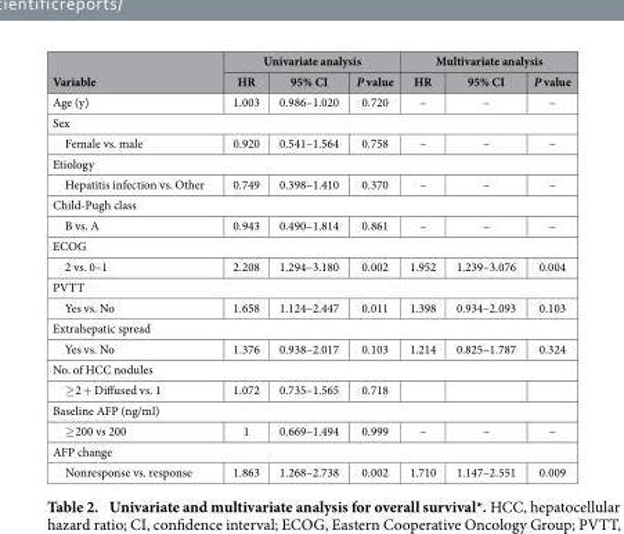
<table><thead><tr><td rowspan="2">Variable</td><td colspan="3">Univariate analysis</td><td colspan="3">Multivariate analysis</td></tr><tr><td>HR</td><td>95% CI</td><td>P value</td><td>HR</td><td>95% CI</td><td>P value</td></tr></thead><tbody><tr><td>Age (y)</td><td>1.003</td><td>0.986–1.020</td><td>0.720</td><td>–</td><td>–</td><td>–</td></tr><tr><td colspan="7">Sex</td></tr><tr><td>Female vs. male</td><td>0.920</td><td>0.541–1.564</td><td>0.758</td><td>–</td><td>–</td><td>–</td></tr><tr><td colspan="7">Etiology</td></tr><tr><td>Hepatitis infection vs. Other</td><td>0.749</td><td>0.398–1.410</td><td>0.370</td><td>–</td><td>–</td><td>–</td></tr><tr><td colspan="7">Child-Pugh class</td></tr><tr><td>B vs. A</td><td>0.943</td><td>0.490–1.814</td><td>0.861</td><td>–</td><td>–</td><td>–</td></tr><tr><td colspan="7">ECOG</td></tr><tr><td>2 vs. 0–1</td><td>2.208</td><td>1.294–3.180</td><td>0.002</td><td>1.952</td><td>1.239–3.076</td><td>0.004</td></tr><tr><td colspan="7">PVTT</td></tr><tr><td>Yes vs. No</td><td>1.658</td><td>1.124–2.447</td><td>0.011</td><td>1.398</td><td>0.934–2.093</td><td>0.103</td></tr><tr><td colspan="7">Extrahepatic spread</td></tr><tr><td>Yes vs. No</td><td>1.376</td><td>0.938–2.017</td><td>0.103</td><td>1.214</td><td>0.825–1.787</td><td>0.324</td></tr><tr><td colspan="7">No. of HCC nodules</td></tr><tr><td>≥ 2 + Diffused vs. 1</td><td>1.072</td><td>0.735–1.565</td><td>0.718</td><td></td><td></td><td></td></tr><tr><td colspan="7">Baseline AFP (ng/ml)</td></tr><tr><td>≥ 200 vs 200</td><td>1</td><td>0.669–1.494</td><td>0.999</td><td>–</td><td>–</td><td>–</td></tr><tr><td colspan="7">AFP change</td></tr><tr><td>Nonresponse vs. response</td><td>1.863</td><td>1.268–2.738</td><td>0.002</td><td>1.710</td><td>1.147–2.551</td><td>0.009</td></tr></tbody></table>